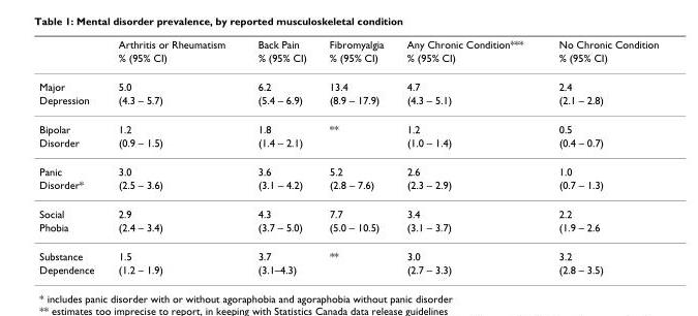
<table><thead><tr><td rowspan="2"></td><td rowspan="2">Arthritis or Rheumatism % (95% CI)</td><td rowspan="2">Back Pain % (95% CI)</td><td rowspan="2">Fibromyalgia % (95% CI)</td><td rowspan="2">Any Chronic Condition*** % (95% CI)</td><td rowspan="2">No Chronic Condition % (95% CI)</td></tr><tr></tr></thead><tbody><tr><td>Major</td><td>5.0</td><td>6.2</td><td>13.4</td><td>4.7</td><td>2.4</td></tr><tr><td>Depression</td><td>(4.3 – 5.7)</td><td>(5.4 – 6.9)</td><td>(8.9 – 17.9)</td><td>(4.3 – 5.1)</td><td>(2.1 – 2.8)</td></tr><tr><td>Bipolar</td><td>1.2</td><td>1.8</td><td>**</td><td>1.2</td><td>0.5</td></tr><tr><td>Disorder</td><td>(0.9 – 1.5)</td><td>(1.4 – 2.1)</td><td></td><td>(1.0 – 1.4)</td><td>(0.4 – 0.7)</td></tr><tr><td>Panic</td><td>3.0</td><td>3.6</td><td>5.2</td><td>2.6</td><td>1.0</td></tr><tr><td>Disorder*</td><td>(2.5 – 3.6)</td><td>(3.1 – 4.2)</td><td>(2.8 – 7.6)</td><td>(2.3 – 2.9)</td><td>(0.7 – 1.3)</td></tr><tr><td>Social</td><td>2.9</td><td>4.3</td><td>7.7</td><td>3.4</td><td>2.2</td></tr><tr><td>Phobia</td><td>(2.4 – 3.4)</td><td>(3.7 – 5.0)</td><td>(5.0 – 10.5)</td><td>(3.1 – 3.7)</td><td>(1.9 – 2.6</td></tr><tr><td>Substance</td><td>1.5</td><td>3.7</td><td>**</td><td>3.0</td><td>3.2</td></tr><tr><td>Dependence</td><td>(1.2 – 1.9)</td><td>(3.1–4.3)</td><td></td><td>(2.7 – 3.3)</td><td>(2.8 – 3.5)</td></tr></tbody></table>